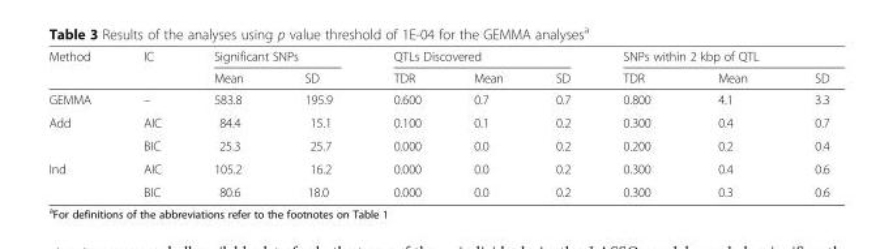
<table><thead><tr><td rowspan="2">Method</td><td rowspan="2">IC</td><td colspan="2">Significant SNPs</td><td colspan="3">QTLs Discovered</td><td colspan="3">SNPs within 2 kbp of QTL</td></tr><tr><td>Mean</td><td>SD</td><td>TDR</td><td>Mean</td><td>SD</td><td>TDR</td><td>Mean</td><td>SD</td></tr></thead><tbody><tr><td>GEMMA</td><td>–</td><td>583.8</td><td>195.9</td><td>0.600</td><td>0.7</td><td>0.7</td><td>0.800</td><td>4.1</td><td>3.3</td></tr><tr><td rowspan="2">Add</td><td>AIC</td><td>84.4</td><td>15.1</td><td>0.100</td><td>0.1</td><td>0.2</td><td>0.300</td><td>0.4</td><td>0.7</td></tr><tr><td>BIC</td><td>25.3</td><td>25.7</td><td>0.000</td><td>0.0</td><td>0.2</td><td>0.200</td><td>0.2</td><td>0.4</td></tr><tr><td rowspan="2">Ind</td><td>AIC</td><td>105.2</td><td>16.2</td><td>0.000</td><td>0.0</td><td>0.2</td><td>0.300</td><td>0.4</td><td>0.6</td></tr><tr><td>BIC</td><td>80.6</td><td>18.0</td><td>0.000</td><td>0.0</td><td>0.2</td><td>0.300</td><td>0.3</td><td>0.6</td></tr></tbody></table>